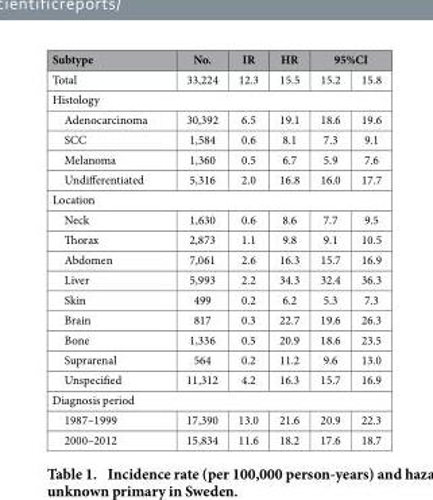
<table><thead><tr><td rowspan="2">Subtype Total</td><td rowspan="2">No. 33,224</td><td rowspan="2">IR 12.3</td><td rowspan="2">HR 15.5</td><td colspan="2">95%CI</td></tr><tr><td>15.2</td><td>15.8</td></tr></thead><tbody><tr><td colspan="6">Histology</td></tr><tr><td>Adenocarcinoma</td><td>30,392</td><td>6.5</td><td>19.1</td><td>18.6</td><td>19.6</td></tr><tr><td>SCC</td><td>1,584</td><td>0.6</td><td>8.1</td><td>7.3</td><td>9.1</td></tr><tr><td>Melanoma</td><td>1,360</td><td>0.5</td><td>6.7</td><td>5.9</td><td>7.6</td></tr><tr><td>Undifferentiated</td><td>5,316</td><td>2.0</td><td>16.8</td><td>16.0</td><td>17.7</td></tr><tr><td colspan="6">Location</td></tr><tr><td>Neck</td><td>1,630</td><td>0.6</td><td>8.6</td><td>7.7</td><td>9.5</td></tr><tr><td>Thorax</td><td>2,873</td><td>1.1</td><td>9.8</td><td>9.1</td><td>10.5</td></tr><tr><td>Abdomen</td><td>7,061</td><td>2.6</td><td>16.3</td><td>15.7</td><td>16.9</td></tr><tr><td>Liver</td><td>5,993</td><td>2.2</td><td>34.3</td><td>32.4</td><td>36.3</td></tr><tr><td>Skin</td><td>499</td><td>0.2</td><td>6.2</td><td>5.3</td><td>7.3</td></tr><tr><td>Brain</td><td>817</td><td>0.3</td><td>22.7</td><td>19.6</td><td>26.3</td></tr><tr><td>Bone</td><td>1,336</td><td>0.5</td><td>20.9</td><td>18.6</td><td>23.5</td></tr><tr><td>Suprarenal</td><td>564</td><td>0.2</td><td>11.2</td><td>9.6</td><td>13.0</td></tr><tr><td>Unspecified</td><td>11,312</td><td>4.2</td><td>16.3</td><td>15.7</td><td>16.9</td></tr><tr><td colspan="6">Diagnosis period</td></tr><tr><td>1987–1999</td><td>17,390</td><td>13.0</td><td>21.6</td><td>20.9</td><td>22.3</td></tr><tr><td>2000–2012</td><td>15,834</td><td>11.6</td><td>18.2</td><td>17.6</td><td>18.7</td></tr></tbody></table>